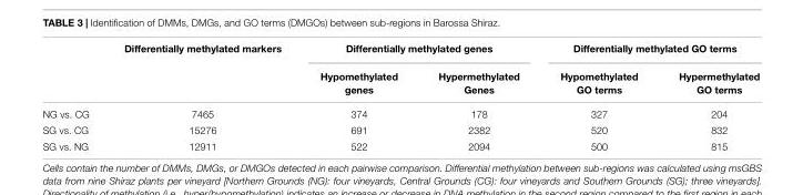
<table><thead><tr><td rowspan="2"></td><td rowspan="2">Differentially methylated markers</td><td colspan="2">Differentially methylated genes</td><td colspan="2">Differentially methylated GO terms</td></tr><tr><td>Hypomethylated genes</td><td>Hypermethylated Genes</td><td>Hypomethylated GO terms</td><td>Hypermethylated GO terms</td></tr></thead><tbody><tr><td>NG vs. CG</td><td>7465</td><td>374</td><td>178</td><td>327</td><td>204</td></tr><tr><td>SG vs. CG</td><td>15276</td><td>691</td><td>2382</td><td>520</td><td>832</td></tr><tr><td>SG vs. NG</td><td>12911</td><td>522</td><td>2094</td><td>500</td><td>815</td></tr></tbody></table>